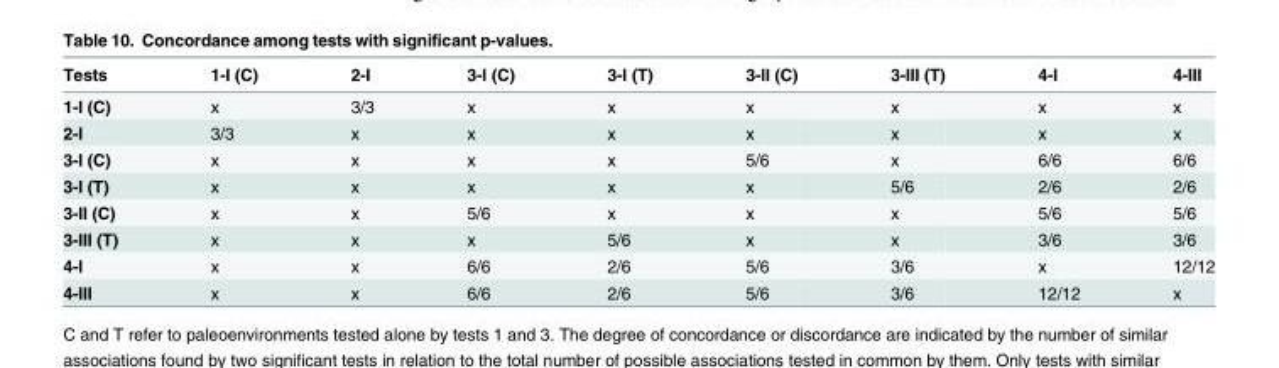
<table><thead><tr><td>Tests</td><td>1-I (C)</td><td>2-I</td><td>3-I (C)</td><td>3-I (T)</td><td>3-II (C)</td><td>3-III (T)</td><td>4-I</td><td>4-III</td></tr></thead><tbody><tr><td>1-I (C)</td><td>x</td><td>3/3</td><td>x</td><td>x</td><td>x</td><td>x</td><td>x</td><td>x</td></tr><tr><td>2-I</td><td>3/3</td><td>x</td><td>x</td><td>x</td><td>x</td><td>x</td><td>x</td><td>x</td></tr><tr><td>3-I (C)</td><td>x</td><td>x</td><td>x</td><td>x</td><td>5/6</td><td>x</td><td>6/6</td><td>6/6</td></tr><tr><td>3-I (T)</td><td>x</td><td>x</td><td>x</td><td>x</td><td>x</td><td>5/6</td><td>2/6</td><td>2/6</td></tr><tr><td>3-II (C)</td><td>x</td><td>x</td><td>5/6</td><td>x</td><td>x</td><td>x</td><td>5/6</td><td>5/6</td></tr><tr><td>3-III (T)</td><td>x</td><td>x</td><td>x</td><td>5/6</td><td>x</td><td>x</td><td>3/6</td><td>3/6</td></tr><tr><td>4-I</td><td>x</td><td>x</td><td>6/6</td><td>2/6</td><td>5/6</td><td>3/6</td><td>x</td><td>12/12</td></tr><tr><td>4-III</td><td>x</td><td>x</td><td>6/6</td><td>2/6</td><td>5/6</td><td>3/6</td><td>12/12</td><td>x</td></tr></tbody></table>